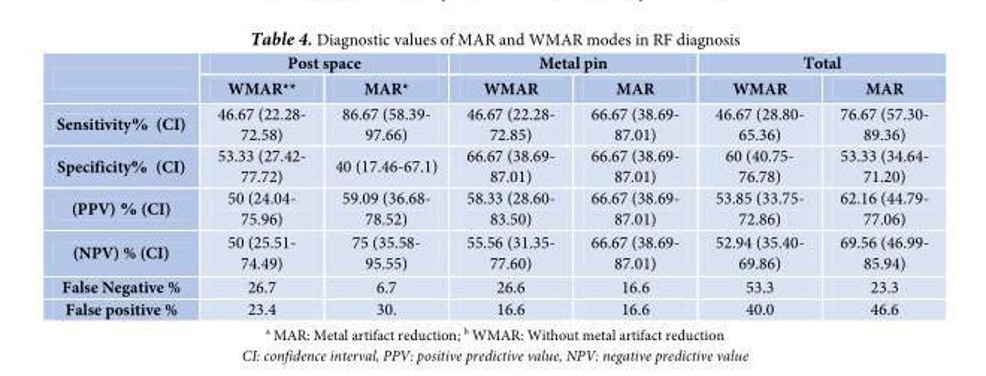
<table><thead><tr><td rowspan="2"></td><td colspan="2">Post space</td><td colspan="2">Metal pin</td><td colspan="2">Total</td></tr><tr><td>WMAR**</td><td>MAR*</td><td>WMAR</td><td>MAR</td><td>WMAR</td><td>MAR</td></tr></thead><tbody><tr><td>Sensitivity % (CI)</td><td>46.67 (22.28- 72.58)</td><td>86.67 (58.39- 97.66)</td><td>46.67 (22.28- 72.85)</td><td>66.67 (38.69- 87.01)</td><td>46.67 (28.80- 65.36)</td><td>76.67 (57.30- 89.36)</td></tr><tr><td>Specificity % (CI)</td><td>53.33 (27.42- 77.72)</td><td>40 (17.46-67.1)</td><td>66.67 (38.69- 87.01)</td><td>66.67 (38.69- 87.01)</td><td>60 (40.75- 76.78)</td><td>53.33 (34.64- 71.20)</td></tr><tr><td>(PPV) % (CI)</td><td>50 (24.04- 75.96)</td><td>59.09 (36.68- 78.52)</td><td>58.33 (28.60- 83.50)</td><td>66.67 (38.69- 87.01)</td><td>53.85 (33.75- 72.86)</td><td>62.16 (44.79- 77.06)</td></tr><tr><td>(NPV) % (CI)</td><td>50 (25.51- 74.49)</td><td>75 (35.58- 95.55)</td><td>55.56 (31.35- 77.60)</td><td>66.67 (38.69- 87.01)</td><td>52.94 (35.40- 69.86)</td><td>69.56 (46.99- 85.94)</td></tr><tr><td>False Negative %</td><td>26.7</td><td>6.7</td><td>26.6</td><td>16.6</td><td>53.3</td><td>23.3</td></tr><tr><td>False positive %</td><td>23.4</td><td>30.</td><td>16.6</td><td>16.6</td><td>40.0</td><td>46.6</td></tr></tbody></table>